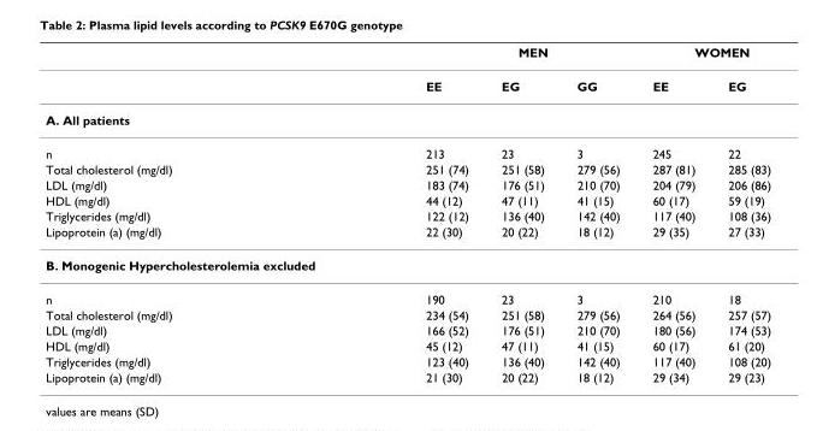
<table><thead><tr><td rowspan="2"></td><td colspan="3">MEN</td><td colspan="2">WOMEN</td></tr><tr><td>EE</td><td>EG</td><td>GG</td><td>EE</td><td>EG</td></tr></thead><tbody><tr><td colspan="6">A. All patients</td></tr><tr><td>n</td><td>213</td><td>23</td><td>3</td><td>245</td><td>22</td></tr><tr><td>Total cholesterol (mg/dl)</td><td>251 (74)</td><td>251 (58)</td><td>279 (56)</td><td>287 (81)</td><td>285 (83)</td></tr><tr><td>LDL (mg/dl)</td><td>183 (74)</td><td>176 (51)</td><td>210 (70)</td><td>204 (79)</td><td>206 (86)</td></tr><tr><td>HDL (mg/dl)</td><td>44 (12)</td><td>47 (11)</td><td>41 (15)</td><td>60 (17)</td><td>59 (19)</td></tr><tr><td>Triglycerides (mg/dl)</td><td>122 (12)</td><td>136 (40)</td><td>142 (40)</td><td>117 (40)</td><td>108 (36)</td></tr><tr><td>Lipoprotein (a) (mg/dl)</td><td>22 (30)</td><td>20 (22)</td><td>18 (12)</td><td>29 (35)</td><td>27 (33)</td></tr><tr><td colspan="6">B. Monogenic Hypercholesterolemia excluded</td></tr><tr><td>n</td><td>190</td><td>23</td><td>3</td><td>210</td><td>18</td></tr><tr><td>Total cholesterol (mg/dl)</td><td>234 (54)</td><td>251 (58)</td><td>279 (56)</td><td>264 (56)</td><td>257 (57)</td></tr><tr><td>LDL (mg/dl)</td><td>166 (52)</td><td>176 (51)</td><td>210 (70)</td><td>180 (56)</td><td>174 (53)</td></tr><tr><td>HDL (mg/dl)</td><td>45 (12)</td><td>47 (11)</td><td>41 (15)</td><td>60 (17)</td><td>61 (20)</td></tr><tr><td>Triglycerides (mg/dl)</td><td>123 (40)</td><td>136 (40)</td><td>142 (40)</td><td>117 (40)</td><td>108 (20)</td></tr><tr><td>Lipoprotein (a) (mg/dl)</td><td>21 (30)</td><td>20 (22)</td><td>18 (12)</td><td>29 (34)</td><td>29 (23)</td></tr></tbody></table>